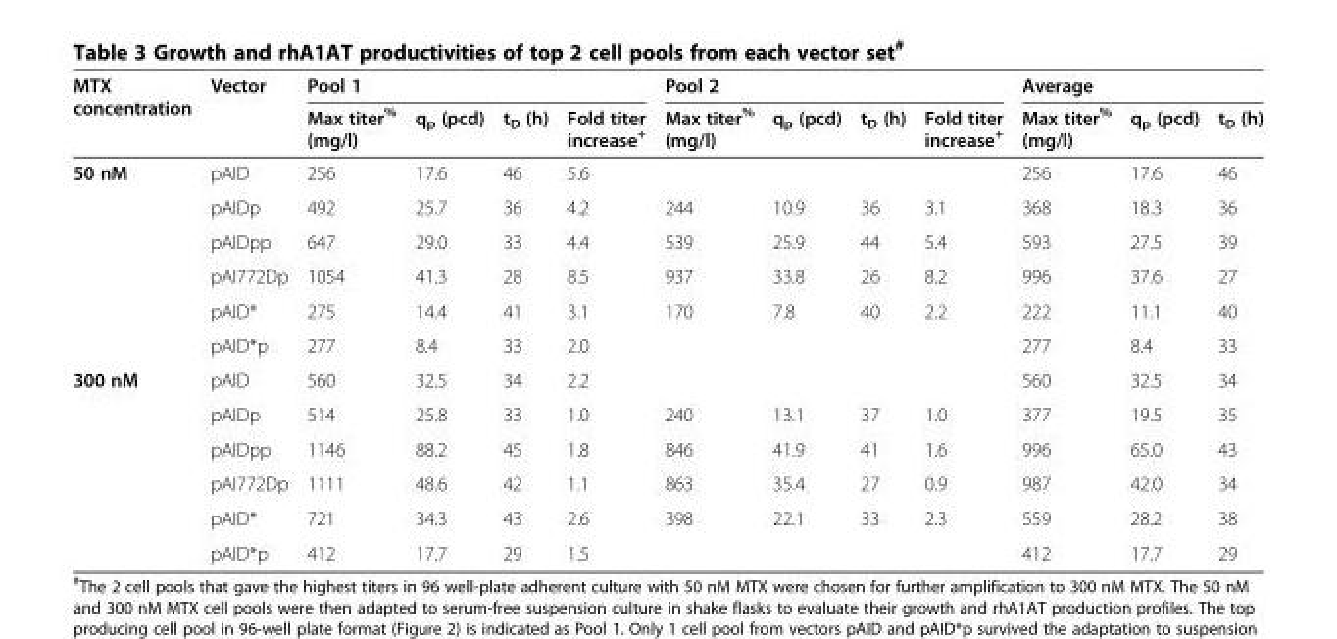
<table><thead><tr><td rowspan="2">MTX concentration</td><td rowspan="2">Vector</td><td colspan="4">Pool 1</td><td colspan="4">Pool 2</td><td colspan="3">Average</td></tr><tr><td>Max titer<sup>%</sup> (mg/l)</td><td>q<sub>p</sub> (pcd)</td><td>t<sub>D</sub> (h)</td><td>Fold titer increase<sup>+</sup></td><td>Max titer<sup>%</sup> (mg/l)</td><td>q<sub>p</sub> (pcd)</td><td>t<sub>D</sub> (h)</td><td>Fold titer increase<sup>+</sup></td><td>Max titer<sup>%</sup> (mg/l)</td><td>q<sub>p</sub> (pcd)</td><td>t<sub>D</sub> (h)</td></tr></thead><tbody><tr><td rowspan="6">50 nM</td><td>pAID</td><td>256</td><td>17.6</td><td>46</td><td>5.6</td><td></td><td></td><td></td><td></td><td>256</td><td>17.6</td><td>46</td></tr><tr><td>pAIDp</td><td>492</td><td>25.7</td><td>36</td><td>4.2</td><td>244</td><td>10.9</td><td>36</td><td>3.1</td><td>368</td><td>18.3</td><td>36</td></tr><tr><td>pAIDpp</td><td>647</td><td>29.0</td><td>33</td><td>4.4</td><td>539</td><td>25.9</td><td>44</td><td>5.4</td><td>593</td><td>27.5</td><td>39</td></tr><tr><td>pAI772Dp</td><td>1054</td><td>41.3</td><td>28</td><td>8.5</td><td>937</td><td>33.8</td><td>26</td><td>8.2</td><td>996</td><td>37.6</td><td>27</td></tr><tr><td>pAID*</td><td>275</td><td>14.4</td><td>41</td><td>3.1</td><td>170</td><td>7.8</td><td>40</td><td>2.2</td><td>222</td><td>11.1</td><td>40</td></tr><tr><td>pAID*p</td><td>277</td><td>8.4</td><td>33</td><td>2.0</td><td></td><td></td><td></td><td></td><td>277</td><td>8.4</td><td>33</td></tr><tr><td rowspan="6">300 nM</td><td>pAID</td><td>560</td><td>32.5</td><td>34</td><td>2.2</td><td></td><td></td><td></td><td></td><td>560</td><td>32.5</td><td>34</td></tr><tr><td>pAIDp</td><td>514</td><td>25.8</td><td>33</td><td>1.0</td><td>240</td><td>13.1</td><td>37</td><td>1.0</td><td>377</td><td>19.5</td><td>35</td></tr><tr><td>pAIDpp</td><td>1146</td><td>88.2</td><td>45</td><td>1.8</td><td>846</td><td>41.9</td><td>41</td><td>1.6</td><td>996</td><td>65.0</td><td>43</td></tr><tr><td>pAI772Dp</td><td>1111</td><td>48.6</td><td>42</td><td>1.1</td><td>863</td><td>35.4</td><td>27</td><td>0.9</td><td>987</td><td>42.0</td><td>34</td></tr><tr><td>pAID*</td><td>721</td><td>34.3</td><td>43</td><td>2.6</td><td>398</td><td>22.1</td><td>33</td><td>2.3</td><td>559</td><td>28.2</td><td>38</td></tr><tr><td>pAID*p</td><td>412</td><td>17.7</td><td>29</td><td>1.5</td><td></td><td></td><td></td><td></td><td>412</td><td>17.7</td><td>29</td></tr></tbody></table>